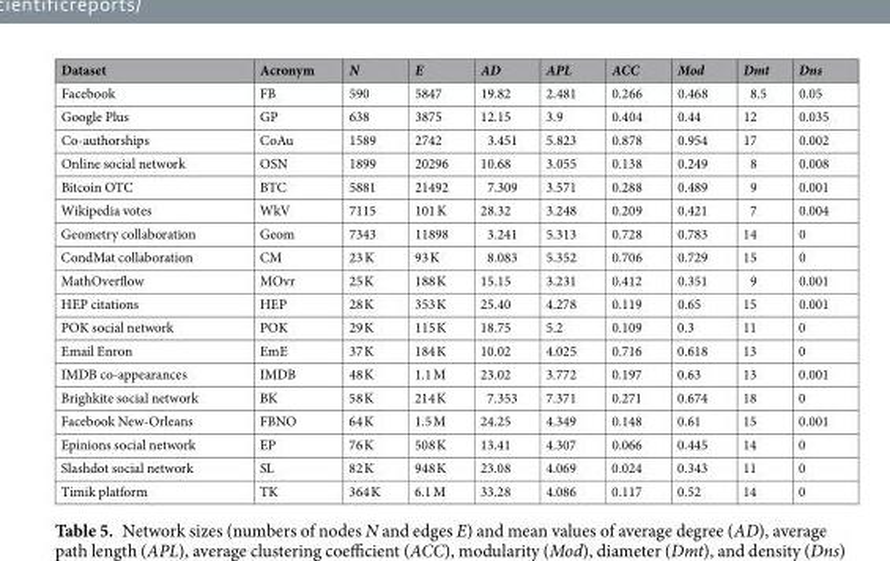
<table><thead><tr><td>Dataset</td><td>Acronym</td><td>N</td><td>E</td><td>AD</td><td>APL</td><td>ACC</td><td>Mod</td><td>Dmt</td><td>Dns</td></tr></thead><tbody><tr><td>Facebook</td><td>FB</td><td>590</td><td>5847</td><td>19.82</td><td>2.481</td><td>0.266</td><td>0.468</td><td>8.5</td><td>0.05</td></tr><tr><td>Google Plus</td><td>GP</td><td>638</td><td>3875</td><td>12.15</td><td>3.9</td><td>0.404</td><td>0.44</td><td>12</td><td>0.035</td></tr><tr><td>Co-authorships</td><td>CoAu</td><td>1589</td><td>2742</td><td>3.451</td><td>5.823</td><td>0.878</td><td>0.954</td><td>17</td><td>0.002</td></tr><tr><td>Online social network</td><td>OSN</td><td>1899</td><td>20296</td><td>10.68</td><td>3.055</td><td>0.138</td><td>0.249</td><td>8</td><td>0.008</td></tr><tr><td>Bitcoin OTC</td><td>BTC</td><td>5881</td><td>21492</td><td>7.309</td><td>3.571</td><td>0.288</td><td>0.489</td><td>9</td><td>0.001</td></tr><tr><td>Wikipedia votes</td><td>WkV</td><td>7115</td><td>101 K</td><td>28.32</td><td>3.248</td><td>0.209</td><td>0.421</td><td>7</td><td>0.004</td></tr><tr><td>Geometry collaboration</td><td>Geom</td><td>7343</td><td>11898</td><td>3.241</td><td>5.313</td><td>0.728</td><td>0.783</td><td>14</td><td>0</td></tr><tr><td>CondMat collaboration</td><td>CM</td><td>23 K</td><td>93 K</td><td>8.083</td><td>5.352</td><td>0.706</td><td>0.729</td><td>15</td><td>0</td></tr><tr><td>MathOverflow</td><td>MOvr</td><td>25 K</td><td>188 K</td><td>15.15</td><td>3.231</td><td>0.412</td><td>0.351</td><td>9</td><td>0.001</td></tr><tr><td>HEP citations</td><td>HEP</td><td>28 K</td><td>353 K</td><td>25.40</td><td>4.278</td><td>0.119</td><td>0.65</td><td>15</td><td>0.001</td></tr><tr><td>POK social network</td><td>POK</td><td>29 K</td><td>115 K</td><td>18.75</td><td>5.2</td><td>0.109</td><td>0.3</td><td>11</td><td>0</td></tr><tr><td>Email Enron</td><td>EmE</td><td>37 K</td><td>184 K</td><td>10.02</td><td>4.025</td><td>0.716</td><td>0.618</td><td>13</td><td>0</td></tr><tr><td>IMDB co-appearances</td><td>IMDB</td><td>48 K</td><td>1.1 M</td><td>23.02</td><td>3.772</td><td>0.197</td><td>0.63</td><td>13</td><td>0.001</td></tr><tr><td>Brighkite social network</td><td>BK</td><td>58 K</td><td>214 K</td><td>7.353</td><td>7.371</td><td>0.271</td><td>0.674</td><td>18</td><td>0</td></tr><tr><td>Facebook New-Orleans</td><td>FBNO</td><td>64 K</td><td>1.5 M</td><td>24.25</td><td>4.349</td><td>0.148</td><td>0.61</td><td>15</td><td>0.001</td></tr><tr><td>Epinions social network</td><td>EP</td><td>76 K</td><td>508 K</td><td>13.41</td><td>4.307</td><td>0.066</td><td>0.445</td><td>14</td><td>0</td></tr><tr><td>Slashdot social network</td><td>SL</td><td>82 K</td><td>948 K</td><td>23.08</td><td>4.069</td><td>0.024</td><td>0.343</td><td>11</td><td>0</td></tr><tr><td>Timik platform</td><td>TK</td><td>364 K</td><td>6.1 M</td><td>33.28</td><td>4.086</td><td>0.117</td><td>0.52</td><td>14</td><td>0</td></tr></tbody></table>